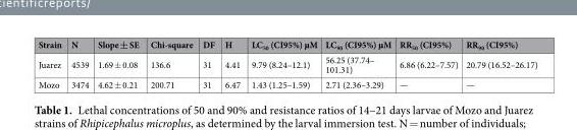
<table><thead><tr><td>Strain</td><td>N</td><td>Slope ± SE</td><td>Chi-square</td><td>DF</td><td>H</td><td>LC<sub>50</sub> (CI95%) µM</td><td>LC<sub>90</sub> (CI95%) µM</td><td>RR<sub>50</sub> (CI95%)</td><td>RR<sub>90</sub> (CI95%)</td></tr></thead><tbody><tr><td>Juarez</td><td>4539</td><td>1.69 ± 0.08</td><td>136.6</td><td>31</td><td>4.41</td><td>9.79 (8.24–12.1)</td><td>56.25 (37.74– 101.31)</td><td>6.86 (6.22–7.57)</td><td>20.79 (16.52–26.17)</td></tr><tr><td>Mozo</td><td>3474</td><td>4.62 ± 0.21</td><td>200.71</td><td>31</td><td>6.47</td><td>1.43 (1.25–1.59)</td><td>2.71 (2.36–3.29)</td><td>—</td><td>—</td></tr></tbody></table>